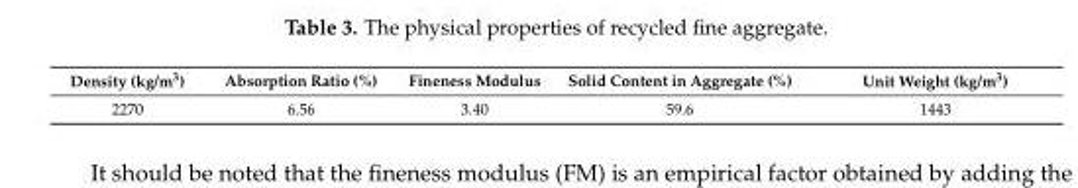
<table><thead><tr><td>Density (kg/m<sup>3</sup>)</td><td>Absorption Ratio (%)</td><td>Fineness Modulus</td><td>Solid Content in Aggregate (%)</td><td>Unit Weight (kg/m<sup>3</sup>)</td></tr></thead><tbody><tr><td>2270</td><td>6.56</td><td>3.40</td><td>59.6</td><td>1443</td></tr></tbody></table>